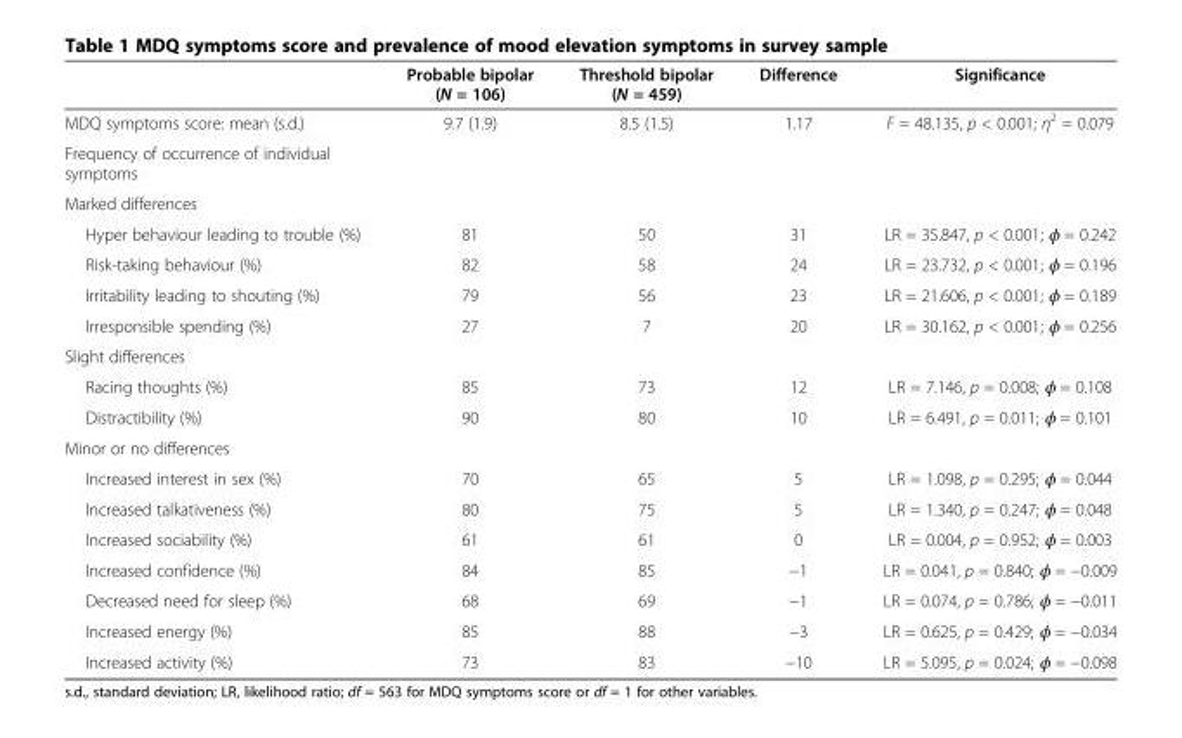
<table><thead><tr><td></td><td>Probable bipolar (N = 106)</td><td>Threshold bipolar (N = 459)</td><td>Difference</td><td>Significance</td></tr></thead><tbody><tr><td>MDQ symptoms score: mean (s.d.)</td><td>9.7 (1.9)</td><td>8.5 (1.5)</td><td>1.17</td><td>F = 48.135, p &lt; 0.001; η<sup>2</sup> = 0.079</td></tr><tr><td colspan="5">Frequency of occurrence of individual symptoms</td></tr><tr><td colspan="5">Marked differences</td></tr><tr><td>Hyper behaviour leading to trouble (%)</td><td>81</td><td>50</td><td>31</td><td>LR = 35.847, p &lt; 0.001; ϕ = 0.242</td></tr><tr><td>Risk-taking behaviour (%)</td><td>82</td><td>58</td><td>24</td><td>LR = 23.732, p &lt; 0.001; ϕ = 0.196</td></tr><tr><td>Irritability leading to shouting (%)</td><td>79</td><td>56</td><td>23</td><td>LR = 21.606, p &lt; 0.001; ϕ = 0.189</td></tr><tr><td>Irresponsible spending (%)</td><td>27</td><td>7</td><td>20</td><td>LR = 30.162, p &lt; 0.001; ϕ = 0.256</td></tr><tr><td colspan="5">Slight differences</td></tr><tr><td>Racing thoughts (%)</td><td>85</td><td>73</td><td>12</td><td>LR = 7.146, p = 0.008; ϕ = 0.108</td></tr><tr><td>Distractibility (%)</td><td>90</td><td>80</td><td>10</td><td>LR = 6.491, p = 0.011; ϕ = 0.101</td></tr><tr><td colspan="5">Minor or no differences</td></tr><tr><td>Increased interest in sex (%)</td><td>70</td><td>65</td><td>5</td><td>LR = 1.098, p = 0.295; ϕ = 0.044</td></tr><tr><td>Increased talkativeness (%)</td><td>80</td><td>75</td><td>5</td><td>LR = 1.340, p = 0.247; ϕ = 0.048</td></tr><tr><td>Increased sociability (%)</td><td>61</td><td>61</td><td>0</td><td>LR = 0.004, p = 0.952; ϕ = 0.003</td></tr><tr><td>Increased confidence (%)</td><td>84</td><td>85</td><td>−1</td><td>LR = 0.041, p = 0.840; ϕ = −0.009</td></tr><tr><td>Decreased need for sleep (%)</td><td>68</td><td>69</td><td>−1</td><td>LR = 0.074, p = 0.786; ϕ = −0.011</td></tr><tr><td>Increased energy (%)</td><td>85</td><td>88</td><td>−3</td><td>LR = 0.625, p = 0.429; ϕ = −0.034</td></tr><tr><td>Increased activity (%)</td><td>73</td><td>83</td><td>−10</td><td>LR = 5.095, p = 0.024; ϕ = −0.098</td></tr></tbody></table>